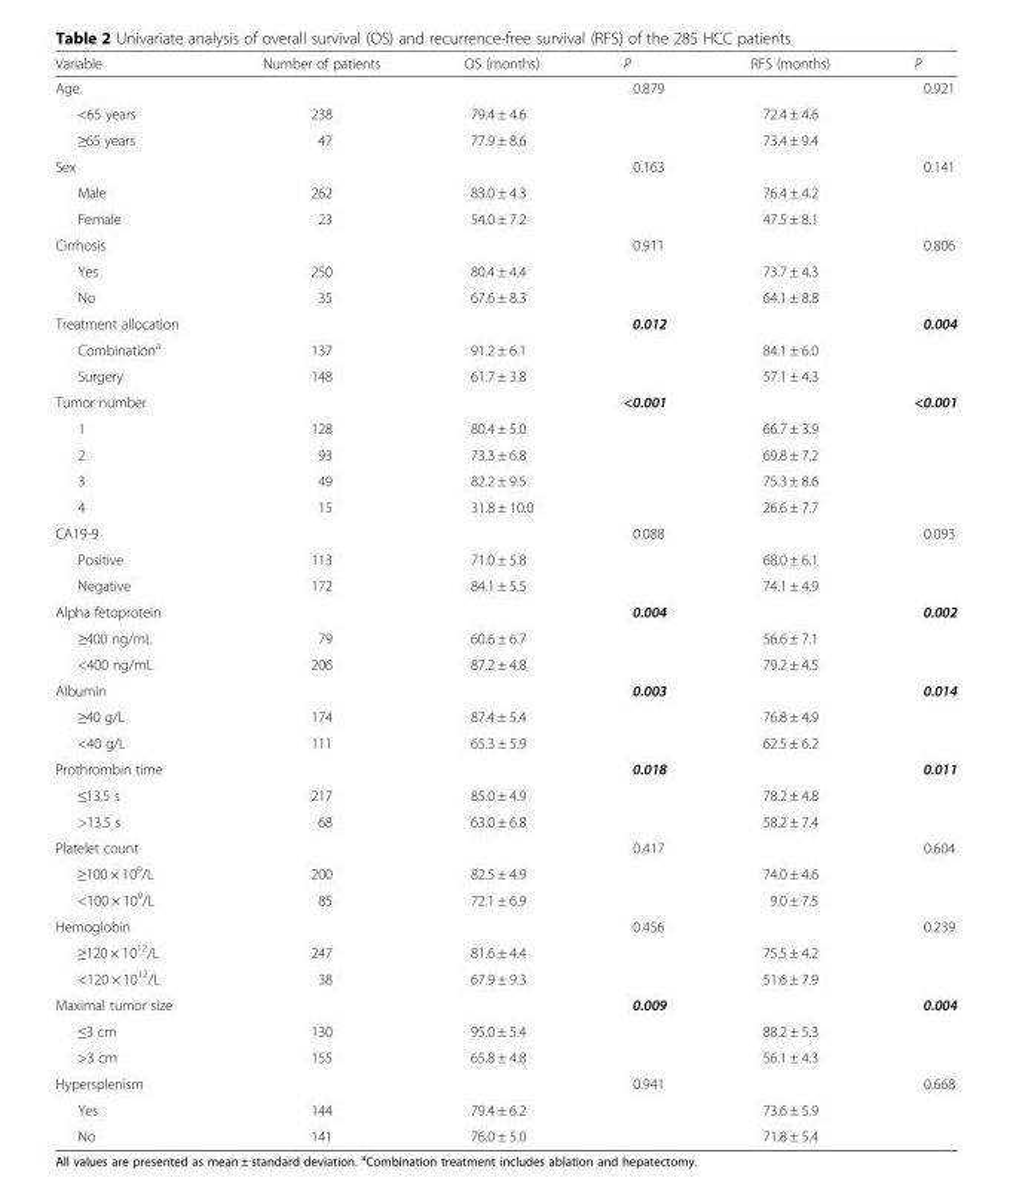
<table><thead><tr><td>Variable</td><td>Number of patients</td><td>OS (months)</td><td>P</td><td>RFS (months)</td><td>P</td></tr></thead><tbody><tr><td>Age</td><td></td><td></td><td>0.879</td><td></td><td>0.921</td></tr><tr><td>&lt;65 years</td><td>238</td><td>79.4 ± 4.6</td><td></td><td>72.4 ± 4.6</td><td></td></tr><tr><td>≥65 years</td><td>47</td><td>77.9 ± 8.6</td><td></td><td>73.4 ± 9.4</td><td></td></tr><tr><td>Sex</td><td></td><td></td><td>0.163</td><td></td><td>0.141</td></tr><tr><td>Male</td><td>262</td><td>83.0 ± 4.3</td><td></td><td>76.4 ± 4.2</td><td></td></tr><tr><td>Female</td><td>23</td><td>54.0 ± 7.2</td><td></td><td>47.5 ± 8.1</td><td></td></tr><tr><td>Cirrhosis</td><td></td><td></td><td>0.911</td><td></td><td>0.806</td></tr><tr><td>Yes</td><td>250</td><td>80.4 ± 4.4</td><td></td><td>73.7 ± 4.3</td><td></td></tr><tr><td>No</td><td>35</td><td>67.6 ± 8.3</td><td></td><td>64.1 ± 8.8</td><td></td></tr><tr><td>Treatment allocation</td><td></td><td></td><td>0.012</td><td></td><td>0.004</td></tr><tr><td>Combination<sup>a</sup></td><td>137</td><td>91.2 ± 6.1</td><td></td><td>84.1 ± 6.0</td><td></td></tr><tr><td>Surgery</td><td>148</td><td>61.7 ± 3.8</td><td></td><td>57.1 ± 4.3</td><td></td></tr><tr><td>Tumor number</td><td></td><td></td><td>&lt;0.001</td><td></td><td>&lt;0.001</td></tr><tr><td>1</td><td>128</td><td>80.4 ± 5.0</td><td></td><td>66.7 ± 3.9</td><td></td></tr><tr><td>2</td><td>93</td><td>73.3 ± 6.8</td><td></td><td>69.8 ± 7.2</td><td></td></tr><tr><td>3</td><td>49</td><td>82.2 ± 9.5</td><td></td><td>75.3 ± 8.6</td><td></td></tr><tr><td>4</td><td>15</td><td>31.8 ± 10.0</td><td></td><td>26.6 ± 7.7</td><td></td></tr><tr><td>CA19-9</td><td></td><td></td><td>0.088</td><td></td><td>0.093</td></tr><tr><td>Positive</td><td>113</td><td>71.0 ± 5.8</td><td></td><td>68.0 ± 6.1</td><td></td></tr><tr><td>Negative</td><td>172</td><td>84.1 ± 5.5</td><td></td><td>74.1 ± 4.9</td><td></td></tr><tr><td>Alpha fetoprotein</td><td></td><td></td><td>0.004</td><td></td><td>0.002</td></tr><tr><td>≥400 ng/mL</td><td>79</td><td>60.6 ± 6.7</td><td></td><td>56.6 ± 7.1</td><td></td></tr><tr><td>&lt;400 ng/mL</td><td>206</td><td>87.2 ± 4.8</td><td></td><td>79.2 ± 4.5</td><td></td></tr><tr><td>Albumin</td><td></td><td></td><td>0.003</td><td></td><td>0.014</td></tr><tr><td>≥40 g/L</td><td>174</td><td>87.4 ± 5.4</td><td></td><td>76.8 ± 4.9</td><td></td></tr><tr><td>&lt;40 g/L</td><td>111</td><td>65.3 ± 5.9</td><td></td><td>62.5 ± 6.2</td><td></td></tr><tr><td>Prothrombin time</td><td></td><td></td><td>0.018</td><td></td><td>0.011</td></tr><tr><td>≤13.5 s</td><td>217</td><td>85.0 ± 4.9</td><td></td><td>78.2 ± 4.8</td><td></td></tr><tr><td>&gt;13.5 s</td><td>68</td><td>63.0 ± 6.8</td><td></td><td>58.2 ± 7.4</td><td></td></tr><tr><td>Platelet count</td><td></td><td></td><td>0.417</td><td></td><td>0.604</td></tr><tr><td>≥100 × 10<sup>9</sup>/L</td><td>200</td><td>82.5 ± 4.9</td><td></td><td>74.0 ± 4.6</td><td></td></tr><tr><td>&lt;100 × 10<sup>9</sup>/L</td><td>85</td><td>72.1 ± 6.9</td><td></td><td>9.0 ± 7.5</td><td></td></tr><tr><td>Hemoglobin</td><td></td><td></td><td>0.456</td><td></td><td>0.239</td></tr><tr><td>≥120 × 10<sup>12</sup>/L</td><td>247</td><td>81.6 ± 4.4</td><td></td><td>75.5 ± 4.2</td><td></td></tr><tr><td>&lt;120 × 10<sup>12</sup>/L</td><td>38</td><td>67.9 ± 9.3</td><td></td><td>51.6 ± 7.9</td><td></td></tr><tr><td>Maximal tumor size</td><td></td><td></td><td>0.009</td><td></td><td>0.004</td></tr><tr><td>≤3 cm</td><td>130</td><td>95.0 ± 5.4</td><td></td><td>88.2 ± 5.3</td><td></td></tr><tr><td>&gt;3 cm</td><td>155</td><td>65.8 ± 4.8</td><td></td><td>56.1 ± 4.3</td><td></td></tr><tr><td>Hypersplenism</td><td></td><td></td><td>0.941</td><td></td><td>0.668</td></tr><tr><td>Yes</td><td>144</td><td>79.4 ± 6.2</td><td></td><td>73.6 ± 5.9</td><td></td></tr><tr><td>No</td><td>141</td><td>76.0 ± 5.0</td><td></td><td>71.8 ± 5.4</td><td></td></tr></tbody></table>